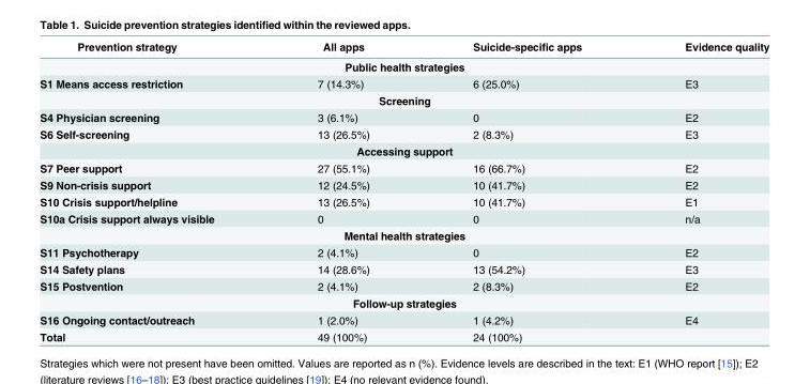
<table><thead><tr><td>Prevention strategy</td><td>All apps</td><td>Suicide-specific apps</td><td>Evidence quality</td></tr></thead><tbody><tr><td colspan="4">Public health strategies</td></tr><tr><td>S1 Means access restriction</td><td>7 (14.3%)</td><td>6 (25.0%)</td><td>E3</td></tr><tr><td colspan="4">Screening</td></tr><tr><td>S4 Physician screening</td><td>3 (6.1%)</td><td>0</td><td>E2</td></tr><tr><td>S6 Self-screening</td><td>13 (26.5%)</td><td>2 (8.3%)</td><td>E3</td></tr><tr><td colspan="4">Accessing support</td></tr><tr><td>S7 Peer support</td><td>27 (55.1%)</td><td>16 (66.7%)</td><td>E2</td></tr><tr><td>S9 Non-crisis support</td><td>12 (24.5%)</td><td>10 (41.7%)</td><td>E2</td></tr><tr><td>S10 Crisis support/helpline</td><td>13 (26.5%)</td><td>10 (41.7%)</td><td>E1</td></tr><tr><td>S10a Crisis support always visible</td><td>0</td><td>0</td><td>n/a</td></tr><tr><td colspan="4">Mental health strategies</td></tr><tr><td>S11 Psychotherapy</td><td>2 (4.1%)</td><td>0</td><td>E2</td></tr><tr><td>S14 Safety plans</td><td>14 (28.6%)</td><td>13 (54.2%)</td><td>E3</td></tr><tr><td>S15 Postvention</td><td>2 (4.1%)</td><td>2 (8.3%)</td><td>E2</td></tr><tr><td colspan="4">Follow-up strategies</td></tr><tr><td>S16 Ongoing contact/outreach</td><td>1 (2.0%)</td><td>1 (4.2%)</td><td>E4</td></tr><tr><td>Total</td><td>49 (100%)</td><td>24 (100%)</td><td></td></tr></tbody></table>